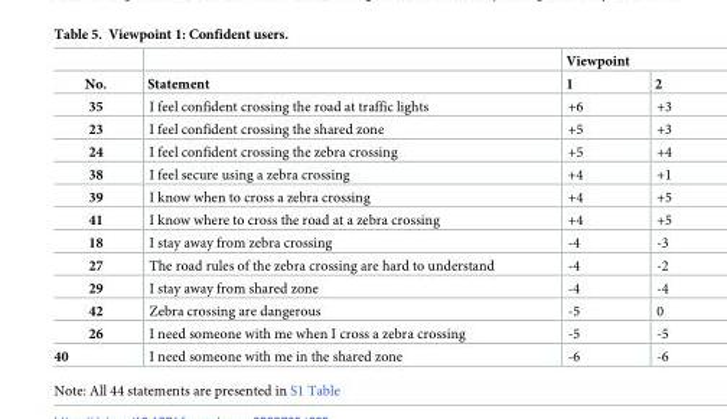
<table><thead><tr><td rowspan="2">No.</td><td rowspan="2">Statement</td><td colspan="2">Viewpoint</td></tr><tr><td>1</td><td>2</td></tr></thead><tbody><tr><td>35</td><td>I feel confident crossing the road at traffic lights</td><td>+6</td><td>+3</td></tr><tr><td>23</td><td>I feel confident crossing the shared zone</td><td>+5</td><td>+3</td></tr><tr><td>24</td><td>I feel confident crossing the zebra crossing</td><td>+5</td><td>+4</td></tr><tr><td>38</td><td>I feel secure using a zebra crossing</td><td>+4</td><td>+1</td></tr><tr><td>39</td><td>I know when to cross a zebra crossing</td><td>+4</td><td>+5</td></tr><tr><td>41</td><td>I know where to cross the road at a zebra crossing</td><td>+4</td><td>+5</td></tr><tr><td>18</td><td>I stay away from zebra crossing</td><td>-4</td><td>-3</td></tr><tr><td>27</td><td>The road rules of the zebra crossing are hard to understand</td><td>-4</td><td>-2</td></tr><tr><td>29</td><td>I stay away from shared zone</td><td>-4</td><td>-4</td></tr><tr><td>42</td><td>Zebra crossing are dangerous</td><td>-5</td><td>0</td></tr><tr><td>26</td><td>I need someone with me when I cross a zebra crossing</td><td>-5</td><td>-5</td></tr><tr><td>40</td><td>I need someone with me in the shared zone</td><td>-6</td><td>-6</td></tr></tbody></table>